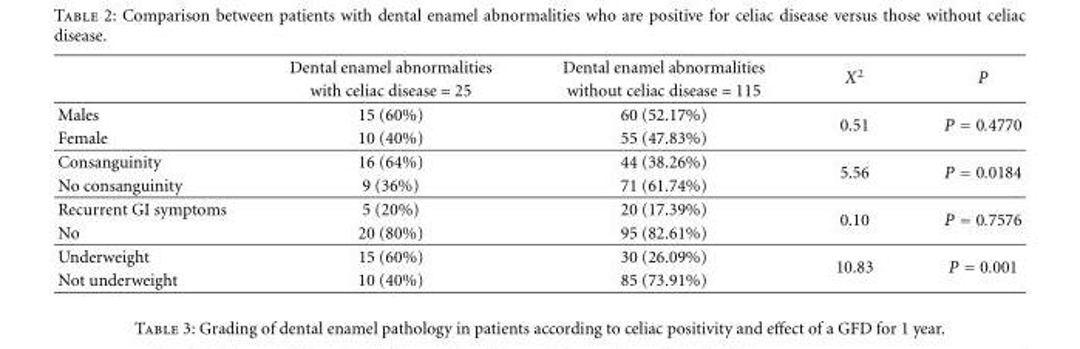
<table><thead><tr><td rowspan="2"></td><td rowspan="2">Dental enamel abnormalities with celiac disease = 25</td><td rowspan="2">Dental enamel abnormalities without celiac disease = 115</td><td rowspan="2">X<sup>2</sup></td><td rowspan="2">P</td></tr><tr></tr></thead><tbody><tr><td>Males</td><td>15 (60%)</td><td>60 (52.17%)</td><td rowspan="2">0.51</td><td rowspan="2">P = 0.4770</td></tr><tr><td>Female</td><td>10 (40%)</td><td>55 (47.83%)</td></tr><tr><td>Consanguinity</td><td>16 (64%)</td><td>44 (38.26%)</td><td rowspan="2">5.56</td><td rowspan="2">P = 0.0184</td></tr><tr><td>No consanguinity</td><td>9 (36%)</td><td>71 (61.74%)</td></tr><tr><td>Recurrent GI symptoms</td><td>5 (20%)</td><td>20 (17.39%)</td><td rowspan="2">0.10</td><td rowspan="2">P = 0.7576</td></tr><tr><td>No</td><td>20 (80%)</td><td>95 (82.61%)</td></tr><tr><td>Underweight</td><td>15 (60%)</td><td>30 (26.09%)</td><td rowspan="2">10.83</td><td rowspan="2">P = 0.001</td></tr><tr><td>Not underweight</td><td>10 (40%)</td><td>85 (73.91%)</td></tr></tbody></table>